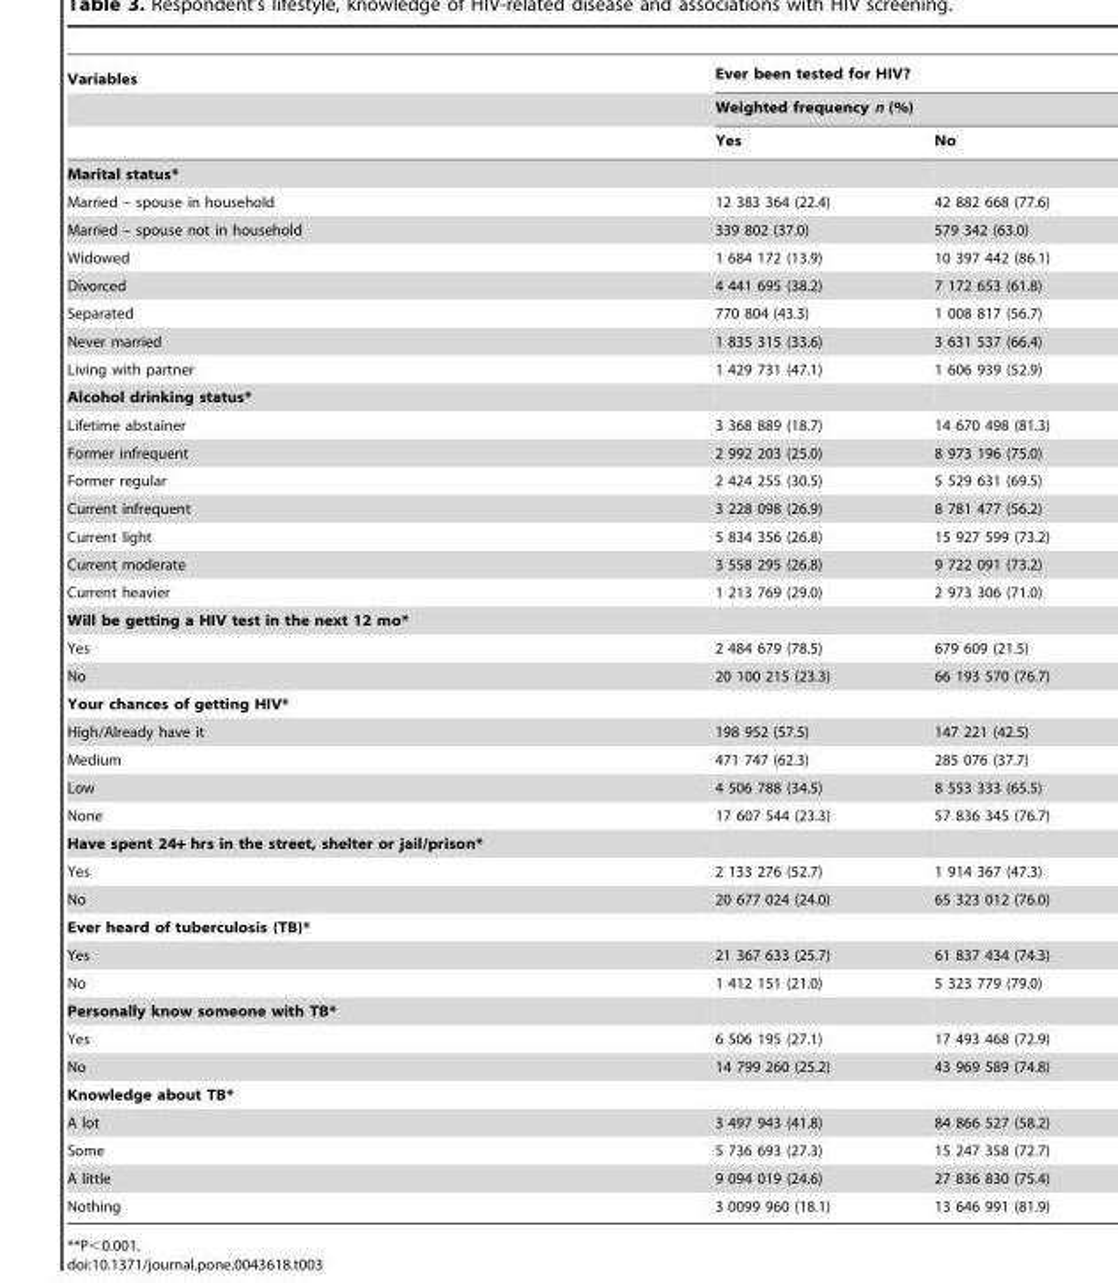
<table><thead><tr><td rowspan="3">Variables</td><td rowspan="2" colspan="2">Ever been tested for HIV? Weighted frequency n (%)</td></tr><tr></tr><tr><td>Yes</td><td>No</td></tr></thead><tbody><tr><td colspan="3">Marital status*</td></tr><tr><td>Married – spouse in household</td><td>12 383 364 (22.4)</td><td>42 882 668 (77.6)</td></tr><tr><td>Married – spouse not in household</td><td>339 802 (37.0)</td><td>579 342 (63.0)</td></tr><tr><td>Widowed</td><td>1 684 172 (13.9)</td><td>10 397 442 (86.1)</td></tr><tr><td>Divorced</td><td>4 441 695 (38.2)</td><td>7 172 653 (61.8)</td></tr><tr><td>Separated</td><td>770 804 (43.3)</td><td>1 008 817 (56.7)</td></tr><tr><td>Never married</td><td>1 835 315 (33.6)</td><td>3 631 537 (66.4)</td></tr><tr><td>Living with partner</td><td>1 429 731 (47.1)</td><td>1 606 939 (52.9)</td></tr><tr><td colspan="3">Alcohol drinking status*</td></tr><tr><td>Lifetime abstainer</td><td>3 368 889 (18.7)</td><td>14 670 498 (81.3)</td></tr><tr><td>Former infrequent</td><td>2 992 203 (25.0)</td><td>8 973 196 (75.0)</td></tr><tr><td>Former regular</td><td>2 424 255 (30.5)</td><td>5 529 631 (69.5)</td></tr><tr><td>Current infrequent</td><td>3 228 098 (26.9)</td><td>8 781 477 (56.2)</td></tr><tr><td>Current light</td><td>5 834 356 (26.8)</td><td>15 927 599 (73.2)</td></tr><tr><td>Current moderate</td><td>3 558 295 (26.8)</td><td>9 722 091 (73.2)</td></tr><tr><td>Current heavier</td><td>1 213 769 (29.0)</td><td>2 973 306 (71.0)</td></tr><tr><td colspan="3">Will be getting a HIV test in the next 12 mo*</td></tr><tr><td>Yes</td><td>2 484 679 (78.5)</td><td>679 609 (21.5)</td></tr><tr><td>No</td><td>20 100 215 (23.3)</td><td>66 193 570 (76.7)</td></tr><tr><td colspan="3">Your chances of getting HIV*</td></tr><tr><td>High/Already have it</td><td>198 952 (57.5)</td><td>147 221 (42.5)</td></tr><tr><td>Medium</td><td>471 747 (62.3)</td><td>285 076 (37.7)</td></tr><tr><td>Low</td><td>4 506 788 (34.5)</td><td>8 553 333 (65.5)</td></tr><tr><td>None</td><td>17 607 544 (23.3)</td><td>57 836 345 (76.7)</td></tr><tr><td colspan="3">Have spent 24+ hrs in the street, shelter or jail/prison*</td></tr><tr><td>Yes</td><td>2 133 276 (52.7)</td><td>1 914 367 (47.3)</td></tr><tr><td>No</td><td>20 677 024 (24.0)</td><td>65 323 012 (76.0)</td></tr><tr><td colspan="3">Ever heard of tuberculosis (TB)*</td></tr><tr><td>Yes</td><td>21 367 633 (25.7)</td><td>61 837 434 (74.3)</td></tr><tr><td>No</td><td>1 412 151 (21.0)</td><td>5 323 779 (79.0)</td></tr><tr><td colspan="3">Personally know someone with TB*</td></tr><tr><td>Yes</td><td>6 506 195 (27.1)</td><td>17 493 468 (72.9)</td></tr><tr><td>No</td><td>14 799 260 (25.2)</td><td>43 969 589 (74.8)</td></tr><tr><td colspan="3">Knowledge about TB*</td></tr><tr><td>A lot</td><td>3 497 943 (41.8)</td><td>84 866 527 (58.2)</td></tr><tr><td>Some</td><td>5 736 693 (27.3)</td><td>15 247 358 (72.7)</td></tr><tr><td>A little</td><td>9 094 019 (24.6)</td><td>27 836 830 (75.4)</td></tr><tr><td>Nothing</td><td>3 0099 960 (18.1)</td><td>13 646 991 (81.9)</td></tr></tbody></table>